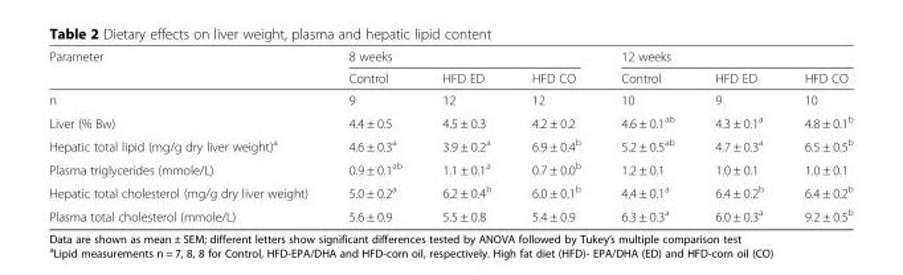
<table><thead><tr><td rowspan="2">Parameter</td><td colspan="3">8 weeks</td><td colspan="3">12 weeks</td></tr><tr><td>Control</td><td>HFD ED</td><td>HFD CO</td><td>Control</td><td>HFD ED</td><td>HFD CO</td></tr></thead><tbody><tr><td>n</td><td>9</td><td>12</td><td>12</td><td>10</td><td>9</td><td>10</td></tr><tr><td>Liver (% Bw)</td><td>4.4 ± 0.5</td><td>4.5 ± 0.3</td><td>4.2 ± 0.2</td><td>4.6 ± 0.1<sup>ab</sup></td><td>4.3 ± 0.1<sup>a</sup></td><td>4.8 ± 0.1<sup>b</sup></td></tr><tr><td>Hepatic total lipid (mg/g dry liver weight)<sup>a</sup></td><td>4.6 ± 0.3<sup>a</sup></td><td>3.9 ± 0.2<sup>a</sup></td><td>6.9 ± 0.4<sup>b</sup></td><td>5.2 ± 0.5<sup>ab</sup></td><td>4.7 ± 0.3<sup>a</sup></td><td>6.5 ± 0.5<sup>b</sup></td></tr><tr><td>Plasma triglycerides (mmole/L)</td><td>0.9 ± 0.1<sup>ab</sup></td><td>1.1 ± 0.1<sup>a</sup></td><td>0.7 ± 0.0<sup>b</sup></td><td>1.2 ± 0.1</td><td>1.0 ± 0.1</td><td>1.0 ± 0.1</td></tr><tr><td>Hepatic total cholesterol (mg/g dry liver weight)</td><td>5.0 ± 0.2<sup>a</sup></td><td>6.2 ± 0.4<sup>b</sup></td><td>6.0 ± 0.1<sup>b</sup></td><td>4.4 ± 0.1<sup>a</sup></td><td>6.4 ± 0.2<sup>b</sup></td><td>6.4 ± 0.2<sup>b</sup></td></tr><tr><td>Plasma total cholesterol (mmole/L)</td><td>5.6 ± 0.9</td><td>5.5 ± 0.8</td><td>5.4 ± 0.9</td><td>6.3 ± 0.3<sup>a</sup></td><td>6.0 ± 0.3<sup>a</sup></td><td>9.2 ± 0.5<sup>b</sup></td></tr></tbody></table>